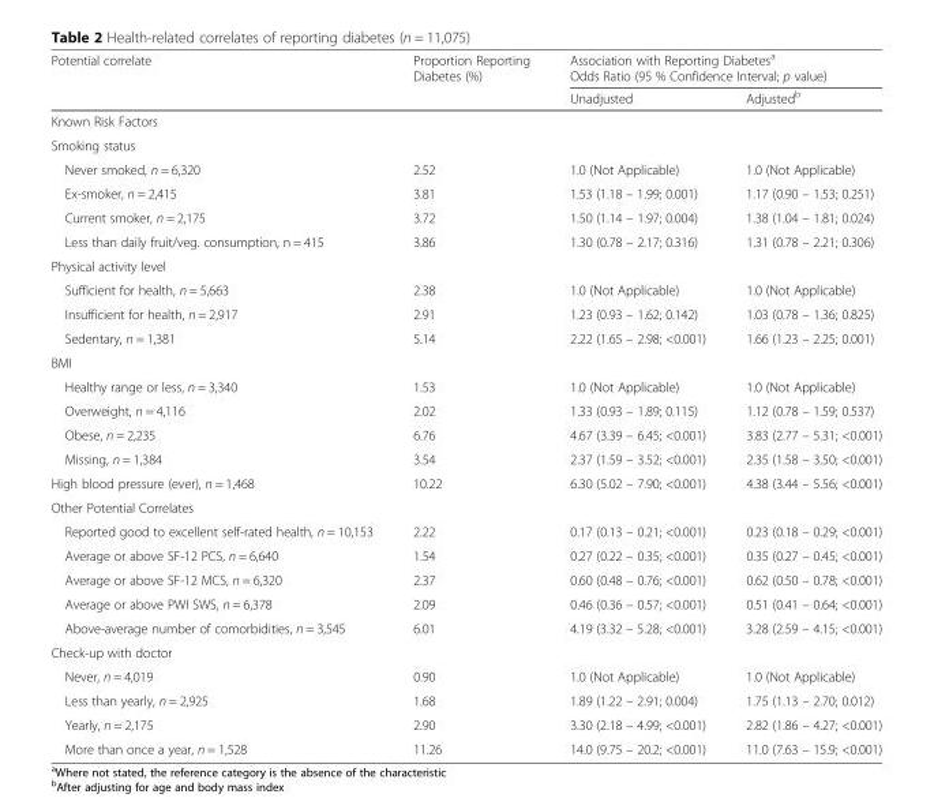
<table><thead><tr><td rowspan="2">Potential correlate</td><td rowspan="2">Proportion Reporting Diabetes (%)</td><td colspan="2">Association with Reporting Diabetes<sup>a</sup> Odds Ratio (95 % Confidence Interval; p value)</td></tr><tr><td>Unadjusted</td><td>Adjusted<sup>b</sup></td></tr></thead><tbody><tr><td colspan="4">Known Risk Factors</td></tr><tr><td colspan="4">Smoking status</td></tr><tr><td>Never smoked, n = 6,320</td><td>2.52</td><td>1.0 (Not Applicable)</td><td>1.0 (Not Applicable)</td></tr><tr><td>Ex-smoker, n = 2,415</td><td>3.81</td><td>1.53 (1.18 – 1.99; 0.001)</td><td>1.17 (0.90 – 1.53; 0.251)</td></tr><tr><td>Current smoker, n = 2,175</td><td>3.72</td><td>1.50 (1.14 – 1.97; 0.004)</td><td>1.38 (1.04 – 1.81; 0.024)</td></tr><tr><td>Less than daily fruit/veg. consumption, n = 415</td><td>3.86</td><td>1.30 (0.78 – 2.17; 0.316)</td><td>1.31 (0.78 – 2.21; 0.306)</td></tr><tr><td colspan="4">Physical activity level</td></tr><tr><td>Sufficient for health, n = 5,663</td><td>2.38</td><td>1.0 (Not Applicable)</td><td>1.0 (Not Applicable)</td></tr><tr><td>Insufficient for health, n = 2,917</td><td>2.91</td><td>1.23 (0.93 – 1.62; 0.142)</td><td>1.03 (0.78 – 1.36; 0.825)</td></tr><tr><td>Sedentary, n = 1,381</td><td>5.14</td><td>2.22 (1.65 – 2.98; &lt;0.001)</td><td>1.66 (1.23 – 2.25; 0.001)</td></tr><tr><td colspan="4">BMI</td></tr><tr><td>Healthy range or less, n = 3,340</td><td>1.53</td><td>1.0 (Not Applicable)</td><td>1.0 (Not Applicable)</td></tr><tr><td>Overweight, n = 4,116</td><td>2.02</td><td>1.33 (0.93 – 1.89; 0.115)</td><td>1.12 (0.78 – 1.59; 0.537)</td></tr><tr><td>Obese, n = 2,235</td><td>6.76</td><td>4.67 (3.39 – 6.45; &lt;0.001)</td><td>3.83 (2.77 – 5.31; &lt;0.001)</td></tr><tr><td>Missing, n = 1,384</td><td>3.54</td><td>2.37 (1.59 – 3.52; &lt;0.001)</td><td>2.35 (1.58 – 3.50; &lt;0.001)</td></tr><tr><td>High blood pressure (ever), n = 1,468</td><td>10.22</td><td>6.30 (5.02 – 7.90; &lt;0.001)</td><td>4.38 (3.44 – 5.56; &lt;0.001)</td></tr><tr><td colspan="4">Other Potential Correlates</td></tr><tr><td>Reported good to excellent self-rated health, n = 10,153</td><td>2.22</td><td>0.17 (0.13 – 0.21; &lt;0.001)</td><td>0.23 (0.18 – 0.29; &lt;0.001)</td></tr><tr><td>Average or above SF-12 PCS, n = 6,640</td><td>1.54</td><td>0.27 (0.22 – 0.35; &lt;0.001)</td><td>0.35 (0.27 – 0.45; &lt;0.001)</td></tr><tr><td>Average or above SF-12 MCS, n = 6,320</td><td>2.37</td><td>0.60 (0.48 – 0.76; &lt;0.001)</td><td>0.62 (0.50 – 0.78; &lt;0.001)</td></tr><tr><td>Average or above PWI SWS, n = 6,378</td><td>2.09</td><td>0.46 (0.36 – 0.57; &lt;0.001)</td><td>0.51 (0.41 – 0.64; &lt;0.001)</td></tr><tr><td>Above-average number of comorbidities, n = 3,545</td><td>6.01</td><td>4.19 (3.32 – 5.28; &lt;0.001)</td><td>3.28 (2.59 – 4.15; &lt;0.001)</td></tr><tr><td colspan="4">Check-up with doctor</td></tr><tr><td>Never, n = 4,019</td><td>0.90</td><td>1.0 (Not Applicable)</td><td>1.0 (Not Applicable)</td></tr><tr><td>Less than yearly, n = 2,925</td><td>1.68</td><td>1.89 (1.22 – 2.91; 0.004)</td><td>1.75 (1.13 – 2.70; 0.012)</td></tr><tr><td>Yearly, n = 2,175</td><td>2.90</td><td>3.30 (2.18 – 4.99; &lt;0.001)</td><td>2.82 (1.86 – 4.27; &lt;0.001)</td></tr><tr><td>More than once a year, n = 1,528</td><td>11.26</td><td>14.0 (9.75 – 20.2; &lt;0.001)</td><td>11.0 (7.63 – 15.9; &lt;0.001)</td></tr></tbody></table>